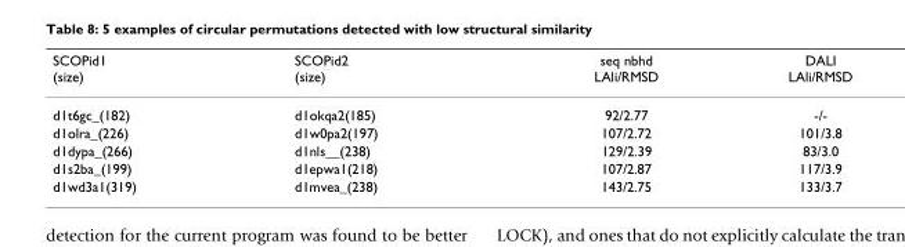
<table><thead><tr><td>SCOPid1 (size)</td><td>SCOPid2 (size)</td><td>seq nbhd LAli/RMSD</td><td>DALI LAli/RMSD</td></tr></thead><tbody><tr><td>d1t6gc_(182)</td><td>d1okqa2(185)</td><td>92/2.77</td><td>-/-</td></tr><tr><td>d1olra_(226)</td><td>d1w0pa2(197)</td><td>107/2.72</td><td>101/3.8</td></tr><tr><td>d1dypa_(266)</td><td>d1nls__(238)</td><td>129/2.39</td><td>83/3.0</td></tr><tr><td>d1s2ba_(199)</td><td>d1epwa1(218)</td><td>107/2.87</td><td>117/3.9</td></tr><tr><td>d1wd3a1(319)</td><td>d1mvea_(238)</td><td>143/2.75</td><td>133/3.7</td></tr></tbody></table>